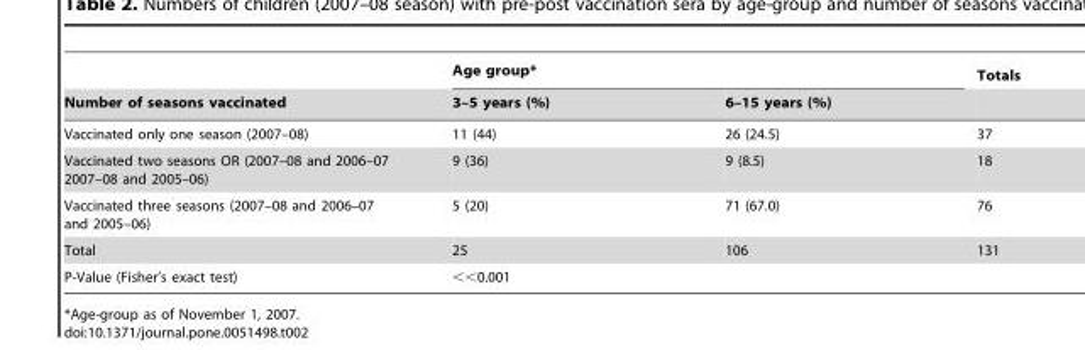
<table><thead><tr><td rowspan="2">Number of seasons vaccinated</td><td colspan="2">Age group*</td><td rowspan="2">Totals</td></tr><tr><td>3–5 years (%)</td><td>6–15 years (%)</td></tr></thead><tbody><tr><td>Vaccinated only one season (2007–08)</td><td>11 (44)</td><td>26 (24.5)</td><td>37</td></tr><tr><td>Vaccinated two seasons OR (2007–08 and 2006–07 2007–08 and 2005–06)</td><td>9 (36)</td><td>9 (8.5)</td><td>18</td></tr><tr><td>Vaccinated three seasons (2007–08 and 2006–07 and 2005–06)</td><td>5 (20)</td><td>71 (67.0)</td><td>76</td></tr><tr><td>Total</td><td>25</td><td>106</td><td>131</td></tr><tr><td>P-Value (Fisher’s exact test)</td><td colspan="3">&lt;&lt;0.001</td></tr></tbody></table>